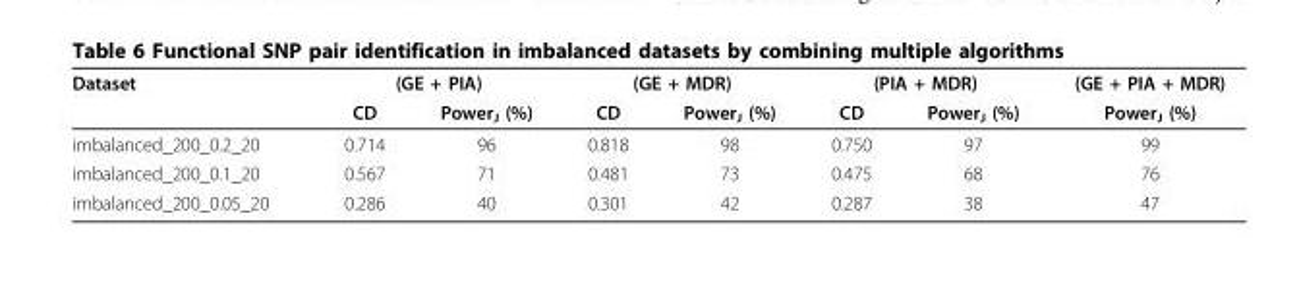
<table><thead><tr><td rowspan="2">Dataset</td><td colspan="2">(GE + PIA)</td><td colspan="2">(GE + MDR)</td><td colspan="2">(PIA + MDR)</td><td rowspan="2">(GE + PIA + MDR) Power<sub>J</sub> (%)</td></tr><tr><td>CD</td><td>Power<sub>J</sub> (%)</td><td>CD</td><td>Power<sub>J</sub> (%)</td><td>CD</td><td>Power<sub>J</sub> (%)</td></tr></thead><tbody><tr><td>imbalanced_200_0.2_20</td><td>0.714</td><td>96</td><td>0.818</td><td>98</td><td>0.750</td><td>97</td><td>99</td></tr><tr><td>imbalanced_200_0.1_20</td><td>0.567</td><td>71</td><td>0.481</td><td>73</td><td>0.475</td><td>68</td><td>76</td></tr><tr><td>imbalanced_200_0.05_20</td><td>0.286</td><td>40</td><td>0.301</td><td>42</td><td>0.287</td><td>38</td><td>47</td></tr></tbody></table>